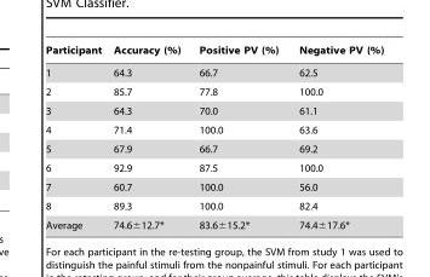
<table><thead><tr><td>Participant</td><td>Accuracy (%)</td><td>Positive PV (%)</td><td>Negative PV (%)</td></tr></thead><tbody><tr><td>1</td><td>64.3</td><td>66.7</td><td>62.5</td></tr><tr><td>2</td><td>85.7</td><td>77.8</td><td>100.0</td></tr><tr><td>3</td><td>64.3</td><td>70.0</td><td>61.1</td></tr><tr><td>4</td><td>71.4</td><td>100.0</td><td>63.6</td></tr><tr><td>5</td><td>67.9</td><td>66.7</td><td>69.2</td></tr><tr><td>6</td><td>92.9</td><td>87.5</td><td>100.0</td></tr><tr><td>7</td><td>60.7</td><td>100.0</td><td>56.0</td></tr><tr><td>8</td><td>89.3</td><td>100.0</td><td>82.4</td></tr><tr><td>Average</td><td>74.6±12.7*</td><td>83.6±15.2*</td><td>74.4±17.6*</td></tr></tbody></table>